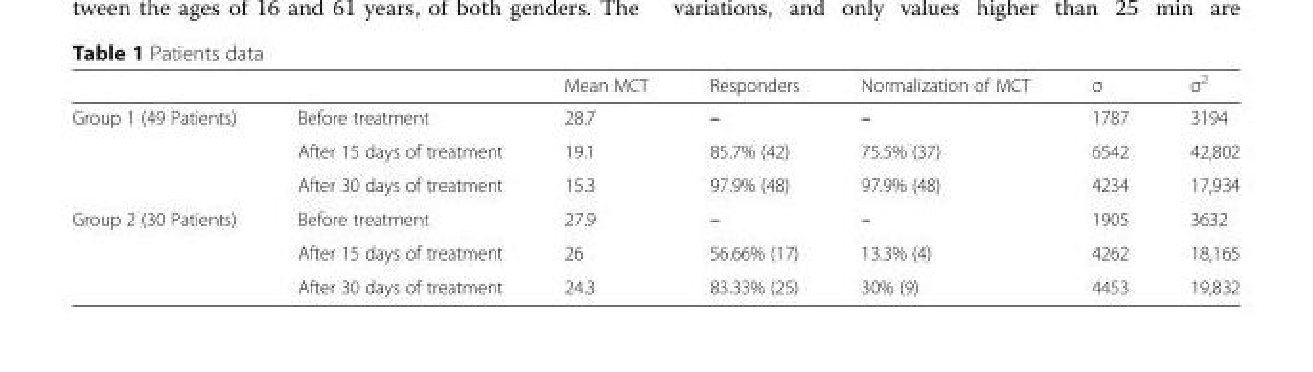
<table><thead><tr><td></td><td></td><td>Mean MCT</td><td>Responders</td><td>Normalization of MCT</td><td>σ</td><td>σ<sup>2</sup></td></tr></thead><tbody><tr><td rowspan="3">Group 1 (49 Patients)</td><td>Before treatment</td><td>28.7</td><td>–</td><td>–</td><td>1787</td><td>3194</td></tr><tr><td>After 15 days of treatment</td><td>19.1</td><td>85.7% (42)</td><td>75.5% (37)</td><td>6542</td><td>42,802</td></tr><tr><td>After 30 days of treatment</td><td>15.3</td><td>97.9% (48)</td><td>97.9% (48)</td><td>4234</td><td>17,934</td></tr><tr><td rowspan="3">Group 2 (30 Patients)</td><td>Before treatment</td><td>27.9</td><td>–</td><td>–</td><td>1905</td><td>3632</td></tr><tr><td>After 15 days of treatment</td><td>26</td><td>56.66% (17)</td><td>13.3% (4)</td><td>4262</td><td>18,165</td></tr><tr><td>After 30 days of treatment</td><td>24.3</td><td>83.33% (25)</td><td>30% (9)</td><td>4453</td><td>19,832</td></tr></tbody></table>